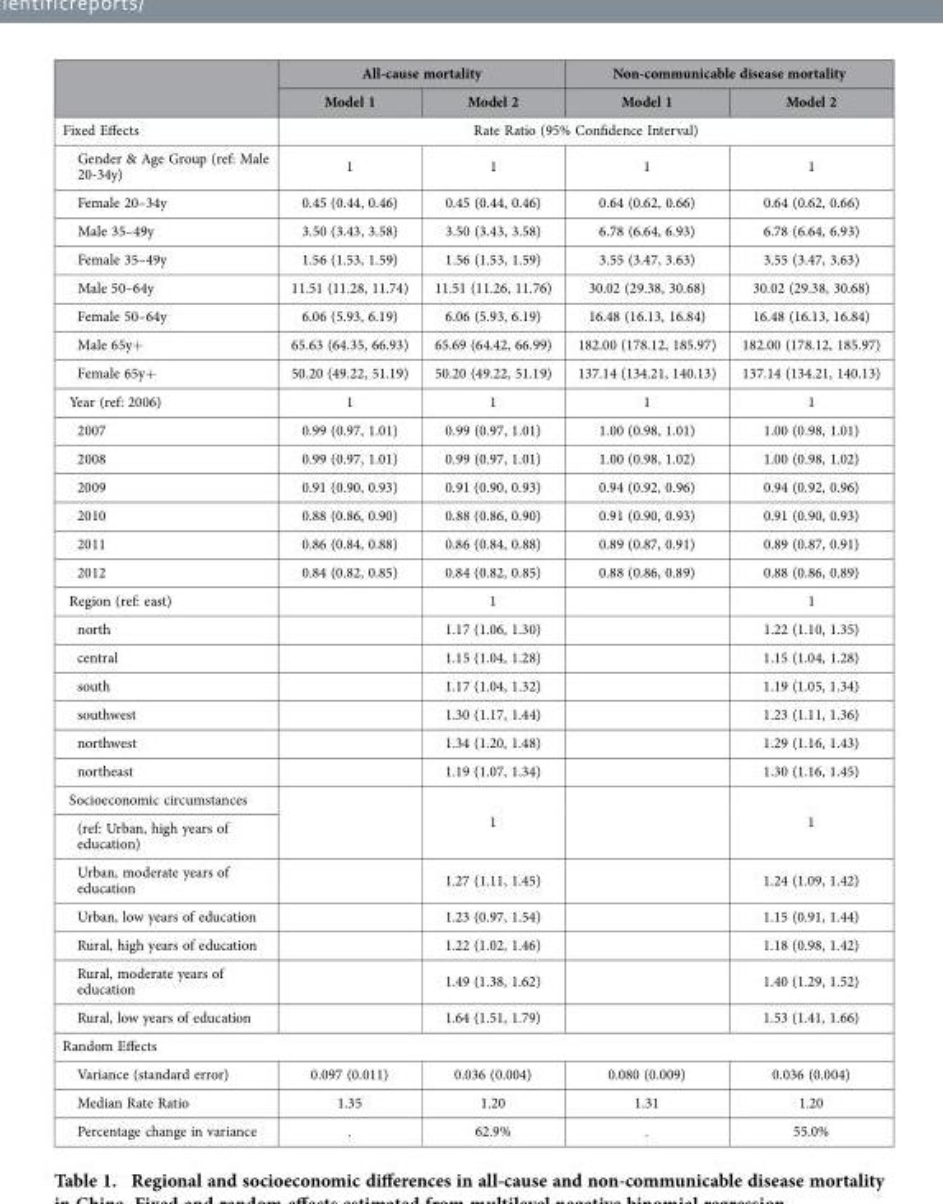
<table><thead><tr><td rowspan="2"></td><td colspan="2">All-cause mortality</td><td colspan="2">Non-communicable disease mortality</td></tr><tr><td>Model 1</td><td>Model 2</td><td>Model 1</td><td>Model 2</td></tr></thead><tbody><tr><td>Fixed Effects</td><td colspan="4">Rate Ratio (95% Confidence Interval)</td></tr><tr><td>Gender &amp; Age Group (ref: Male 20-34y)</td><td>1</td><td>1</td><td>1</td><td>1</td></tr><tr><td>Female 20–34y</td><td>0.45 (0.44, 0.46)</td><td>0.45 (0.44, 0.46)</td><td>0.64 (0.62, 0.66)</td><td>0.64 (0.62, 0.66)</td></tr><tr><td>Male 35–49y</td><td>3.50 (3.43, 3.58)</td><td>3.50 (3.43, 3.58)</td><td>6.78 (6.64, 6.93)</td><td>6.78 (6.64, 6.93)</td></tr><tr><td>Female 35–49y</td><td>1.56 (1.53, 1.59)</td><td>1.56 (1.53, 1.59)</td><td>3.55 (3.47, 3.63)</td><td>3.55 (3.47, 3.63)</td></tr><tr><td>Male 50–64y</td><td>11.51 (11.28, 11.74)</td><td>11.51 (11.26, 11.76)</td><td>30.02 (29.38, 30.68)</td><td>30.02 (29.38, 30.68)</td></tr><tr><td>Female 50–64y</td><td>6.06 (5.93, 6.19)</td><td>6.06 (5.93, 6.19)</td><td>16.48 (16.13, 16.84)</td><td>16.48 (16.13, 16.84)</td></tr><tr><td>Male 65y+</td><td>65.63 (64.35, 66.93)</td><td>65.69 (64.42, 66.99)</td><td>182.00 (178.12, 185.97)</td><td>182.00 (178.12, 185.97)</td></tr><tr><td>Female 65y+</td><td>50.20 (49.22, 51.19)</td><td>50.20 (49.22, 51.19)</td><td>137.14 (134.21, 140.13)</td><td>137.14 (134.21, 140.13)</td></tr><tr><td>Year (ref: 2006)</td><td>1</td><td>1</td><td>1</td><td>1</td></tr><tr><td>2007</td><td>0.99 (0.97, 1.01)</td><td>0.99 (0.97, 1.01)</td><td>1.00 (0.98, 1.01)</td><td>1.00 (0.98, 1.01)</td></tr><tr><td>2008</td><td>0.99 (0.97, 1.01)</td><td>0.99 (0.97, 1.01)</td><td>1.00 (0.98, 1.02)</td><td>1.00 (0.98, 1.02)</td></tr><tr><td>2009</td><td>0.91 (0.90, 0.93)</td><td>0.91 (0.90, 0.93)</td><td>0.94 (0.92, 0.96)</td><td>0.94 (0.92, 0.96)</td></tr><tr><td>2010</td><td>0.88 (0.86, 0.90)</td><td>0.88 (0.86, 0.90)</td><td>0.91 (0.90, 0.93)</td><td>0.91 (0.90, 0.93)</td></tr><tr><td>2011</td><td>0.86 (0.84, 0.88)</td><td>0.86 (0.84, 0.88)</td><td>0.89 (0.87, 0.91)</td><td>0.89 (0.87, 0.91)</td></tr><tr><td>2012</td><td>0.84 (0.82, 0.85)</td><td>0.84 (0.82, 0.85)</td><td>0.88 (0.86, 0.89)</td><td>0.88 (0.86, 0.89)</td></tr><tr><td>Region (ref: east)</td><td></td><td>1</td><td></td><td>1</td></tr><tr><td>north</td><td></td><td>1.17 (1.06, 1.30)</td><td></td><td>1.22 (1.10, 1.35)</td></tr><tr><td>central</td><td></td><td>1.15 (1.04, 1.28)</td><td></td><td>1.15 (1.04, 1.28)</td></tr><tr><td>south</td><td></td><td>1.17 (1.04, 1.32)</td><td></td><td>1.19 (1.05, 1.34)</td></tr><tr><td>southwest</td><td></td><td>1.30 (1.17, 1.44)</td><td></td><td>1.23 (1.11, 1.36)</td></tr><tr><td>northwest</td><td></td><td>1.34 (1.20, 1.48)</td><td></td><td>1.29 (1.16, 1.43)</td></tr><tr><td>northeast</td><td></td><td>1.19 (1.07, 1.34)</td><td></td><td>1.30 (1.16, 1.45)</td></tr><tr><td>Socioeconomic circumstances</td><td rowspan="2"></td><td rowspan="2">1</td><td rowspan="2"></td><td rowspan="2">1</td></tr><tr><td>(ref: Urban, high years of education)</td></tr><tr><td>Urban, moderate years of education</td><td></td><td>1.27 (1.11, 1.45)</td><td></td><td>1.24 (1.09, 1.42)</td></tr><tr><td>Urban, low years of education</td><td></td><td>1.23 (0.97, 1.54)</td><td></td><td>1.15 (0.91, 1.44)</td></tr><tr><td>Rural, high years of education</td><td></td><td>1.22 (1.02, 1.46)</td><td></td><td>1.18 (0.98, 1.42)</td></tr><tr><td>Rural, moderate years of education</td><td></td><td>1.49 (1.38, 1.62)</td><td></td><td>1.40 (1.29, 1.52)</td></tr><tr><td>Rural, low years of education</td><td></td><td>1.64 (1.51, 1.79)</td><td></td><td>1.53 (1.41, 1.66)</td></tr><tr><td colspan="5">Random Effects</td></tr><tr><td>Variance (standard error)</td><td>0.097 (0.011)</td><td>0.036 (0.004)</td><td>0.080 (0.009)</td><td>0.036 (0.004)</td></tr><tr><td>Median Rate Ratio</td><td>1.35</td><td>1.20</td><td>1.31</td><td>1.20</td></tr><tr><td>Percentage change in variance</td><td>.</td><td>62.9%</td><td>.</td><td>55.0%</td></tr></tbody></table>